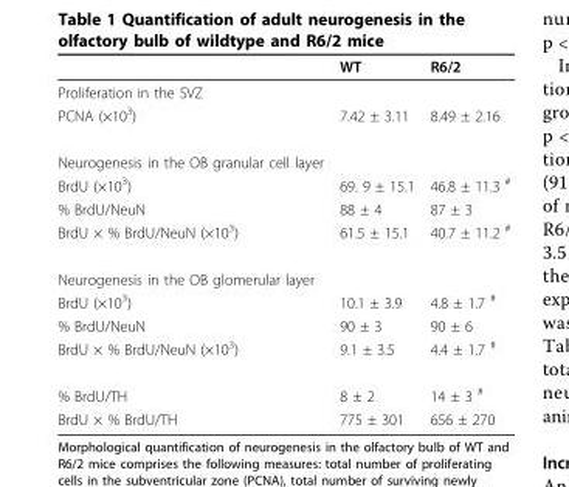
<table><thead><tr><td></td><td>WT</td><td>R6/2</td></tr></thead><tbody><tr><td colspan="3">Proliferation in the SVZ</td></tr><tr><td>PCNA (×10<sup>3</sup>)</td><td>7.42 ± 3.11</td><td>8.49 ± 2.16</td></tr><tr><td colspan="3">Neurogenesis in the OB granular cell layer</td></tr><tr><td>BrdU (×10<sup>3</sup>)</td><td>69. 9 ± 15.1</td><td>46.8 ± 11.3 <sup>#</sup></td></tr><tr><td>% BrdU/NeuN</td><td>88 ± 4</td><td>87 ± 3</td></tr><tr><td>BrdU × % BrdU/NeuN (×10<sup>3</sup>)</td><td>61.5 ± 15.1</td><td>40.7 ± 11.2 <sup>#</sup></td></tr><tr><td colspan="3">Neurogenesis in the OB glomerular layer</td></tr><tr><td>BrdU (×10<sup>3</sup>)</td><td>10.1 ± 3.9</td><td>4.8 ± 1.7 <sup>#</sup></td></tr><tr><td>% BrdU/NeuN</td><td>90 ± 3</td><td>90 ± 6</td></tr><tr><td>BrdU × % BrdU/NeuN (×10<sup>3</sup>)</td><td>9.1 ± 3.5</td><td>4.4 ± 1.7 <sup>#</sup></td></tr><tr><td>% BrdU/TH</td><td>8 ± 2</td><td>14 ± 3 <sup>#</sup></td></tr><tr><td>BrdU × % BrdU/TH</td><td>775 ± 301</td><td>656 ± 270</td></tr></tbody></table>